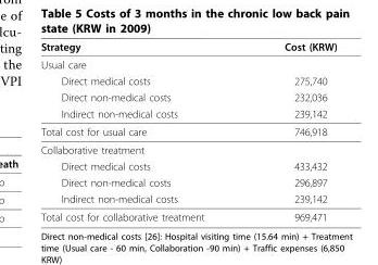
<table><thead><tr><td>Strategy</td><td>Cost (KRW)</td></tr></thead><tbody><tr><td colspan="2">Usual care</td></tr><tr><td>Direct medical costs</td><td>275,740</td></tr><tr><td>Direct non-medical costs</td><td>232,036</td></tr><tr><td>Indirect non-medical costs</td><td>239,142</td></tr><tr><td>Total cost for usual care</td><td>746,918</td></tr><tr><td colspan="2">Collaborative treatment</td></tr><tr><td>Direct medical costs</td><td>433,432</td></tr><tr><td>Direct non-medical costs</td><td>296,897</td></tr><tr><td>Indirect non-medical costs</td><td>239,142</td></tr><tr><td>Total cost for collaborative treatment</td><td>969,471</td></tr></tbody></table>